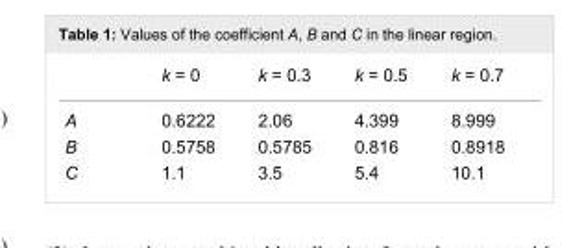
<table><thead><tr><td></td><td>k = 0</td><td>k = 0.3</td><td>k = 0.5</td><td>k = 0.7</td></tr></thead><tbody><tr><td>A</td><td>0.6222</td><td>2.06</td><td>4.399</td><td>8.999</td></tr><tr><td>B</td><td>0.5758</td><td>0.5785</td><td>0.816</td><td>0.8918</td></tr><tr><td>C</td><td>1.1</td><td>3.5</td><td>5.4</td><td>10.1</td></tr></tbody></table>